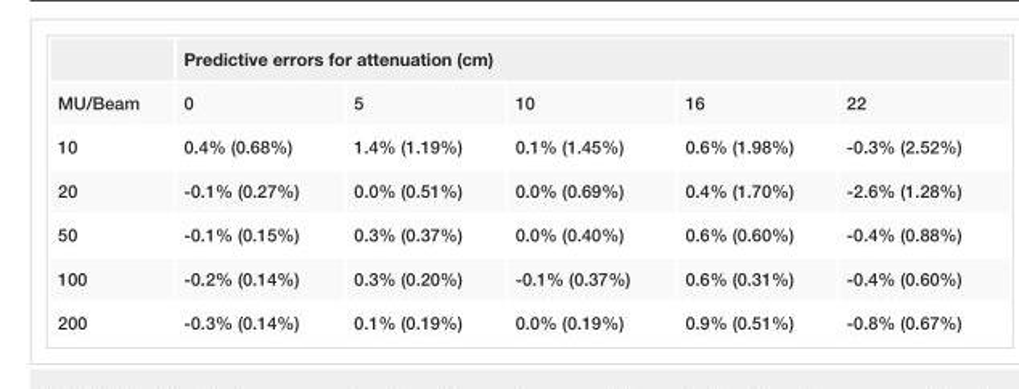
<table><thead><tr><td rowspan="2">MU/Beam</td><td colspan="5">Predictive errors for attenuation (cm)</td></tr><tr><td>0</td><td>5</td><td>10</td><td>16</td><td>22</td></tr></thead><tbody><tr><td>10</td><td>0.4% (0.68%)</td><td>1.4% (1.19%)</td><td>0.1% (1.45%)</td><td>0.6% (1.98%)</td><td>-0.3% (2.52%)</td></tr><tr><td>20</td><td>-0.1% (0.27%)</td><td>0.0% (0.51%)</td><td>0.0% (0.69%)</td><td>0.4% (1.70%)</td><td>-2.6% (1.28%)</td></tr><tr><td>50</td><td>-0.1% (0.15%)</td><td>0.3% (0.37%)</td><td>0.0% (0.40%)</td><td>0.6% (0.60%)</td><td>-0.4% (0.88%)</td></tr><tr><td>100</td><td>-0.2% (0.14%)</td><td>0.3% (0.20%)</td><td>-0.1% (0.37%)</td><td>0.6% (0.31%)</td><td>-0.4% (0.60%)</td></tr><tr><td>200</td><td>-0.3% (0.14%)</td><td>0.1% (0.19%)</td><td>0.0% (0.19%)</td><td>0.9% (0.51%)</td><td>-0.8% (0.67%)</td></tr></tbody></table>